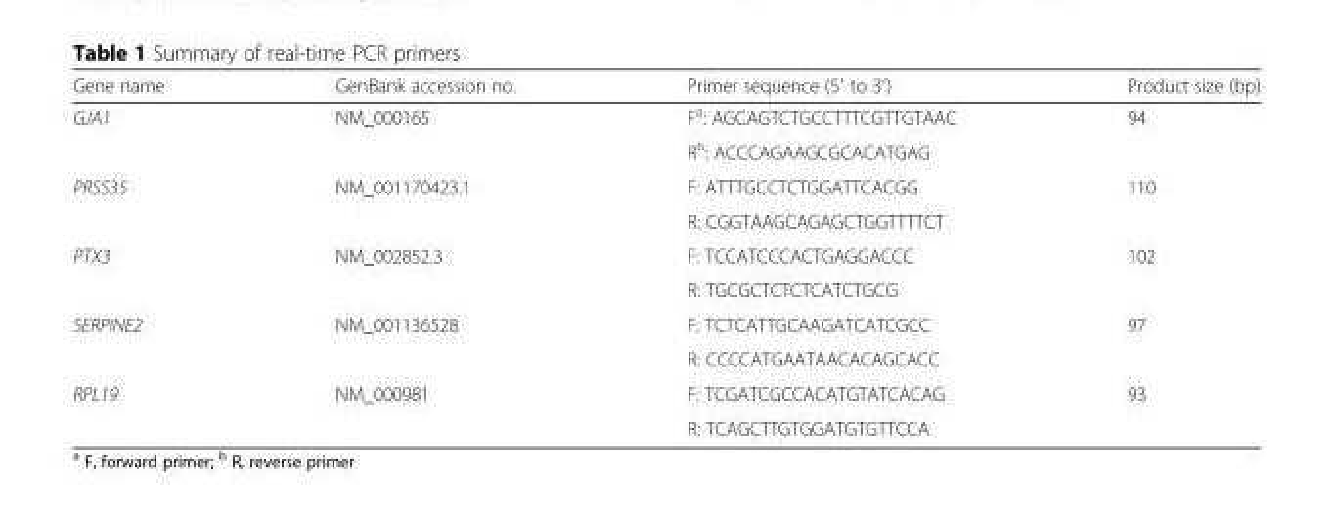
<table><thead><tr><td>Gene name</td><td>GenBank accession no.</td><td>Primer sequence (5′ to 3′)</td><td>Product size (bp)</td></tr></thead><tbody><tr><td rowspan="2">GJA1</td><td>NM_000165</td><td>F<sup>a</sup>: AGCAGTCTGCCTTTCGTTGTAAC</td><td>94</td></tr><tr><td></td><td>R<sup>b</sup>: ACCCAGAAGCGCACATGAG</td><td></td></tr><tr><td rowspan="2">PRSS35</td><td>NM_001170423.1</td><td>F: ATTTGCCTCTGGATTCACGG</td><td>110</td></tr><tr><td></td><td>R: CGGTAAGCAGAGCTGGTTTTCT</td><td></td></tr><tr><td rowspan="2">PTX3</td><td>NM_002852.3</td><td>F: TCCATCCCACTGAGGACCC</td><td>102</td></tr><tr><td></td><td>R: TGCGCTCTCTCATCTGCG</td><td></td></tr><tr><td rowspan="2">SERPINE2</td><td>NM_001136528</td><td>F: TCTCATTGCAAGATCATCGCC</td><td>97</td></tr><tr><td></td><td>R: CCCCATGAATAACACAGCACC</td><td></td></tr><tr><td rowspan="2">RPL19</td><td>NM_000981</td><td>F: TCGATCGCCACATGTATCACAG</td><td>93</td></tr><tr><td></td><td>R: TCAGCTTGTGGATGTGTTCCA</td><td></td></tr></tbody></table>